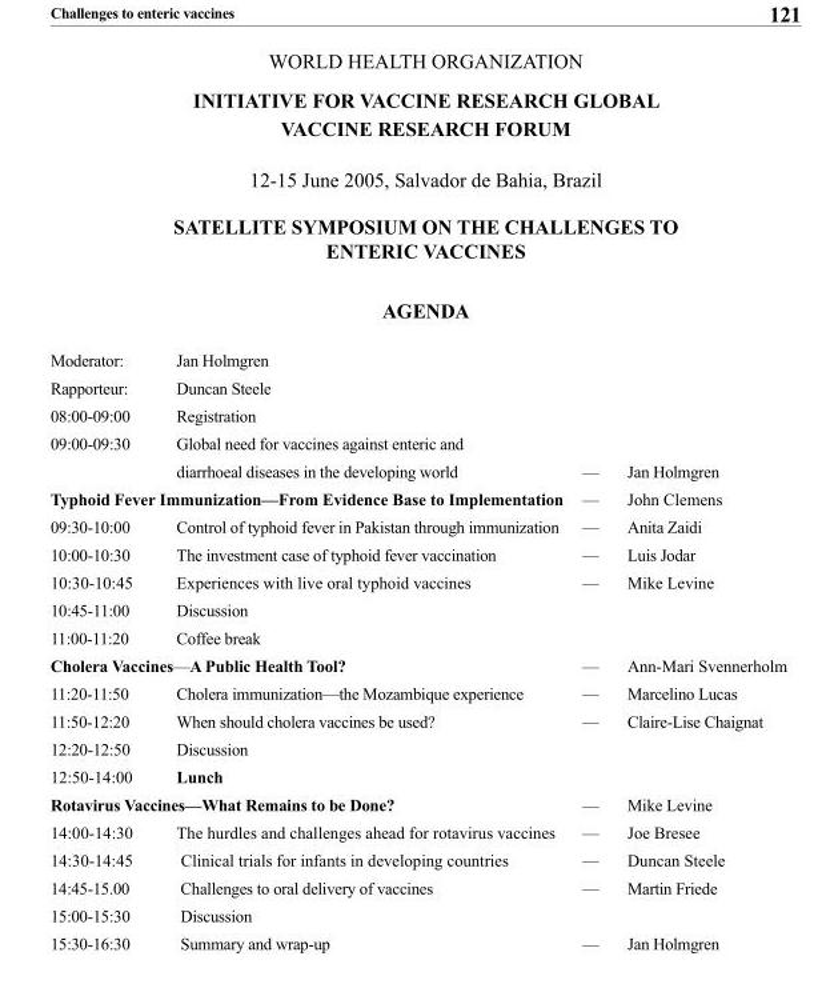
<table><thead><tr><td rowspan="5" colspan="4">WORLD HEALTH ORGANIZATION INITIATIVE FOR VACCINE RESEARCH GLOBAL VACCINE RESEARCH FORUM 12-15 June 2005, Salvador de Bahia, Brazil SATELLITE SYMPOSIUM ON THE CHALLENGES TO ENTERIC VACCINES AGENDA</td></tr><tr></tr><tr></tr><tr></tr><tr></tr><tr><td>Moderator:</td><td>Jan Holmgren</td><td></td><td></td></tr></thead><tbody><tr><td>Rapporteur:</td><td>Duncan Steele</td><td></td><td></td></tr><tr><td>08:00-09:00</td><td>Registration</td><td></td><td></td></tr><tr><td>09:00-09:30</td><td>Global need for vaccines against enteric and diarrhoeal diseases in the developing world</td><td>—</td><td>Jan Holmgren</td></tr><tr><td colspan="2">Typhoid Fever Immunization—From Evidence Base to Implementation</td><td>—</td><td>John Clemens</td></tr><tr><td>09:30-10:00</td><td>Control of typhoid fever in Pakistan through immunization</td><td>—</td><td>Anita Zaidi</td></tr><tr><td>10:00-10:30</td><td>The investment case of typhoid fever vaccination</td><td>—</td><td>Luis Jodar</td></tr><tr><td>10:30-10:45</td><td>Experiences with live oral typhoid vaccines</td><td>—</td><td>Mike Levine</td></tr><tr><td>10:45-11:00</td><td>Discussion</td><td></td><td></td></tr><tr><td>11:00-11:20</td><td>Coffee break</td><td></td><td></td></tr><tr><td colspan="2">Cholera Vaccines—A Public Health Tool?</td><td>—</td><td>Ann-Mari Svennerholm</td></tr><tr><td>11:20-11:50</td><td>Cholera immunization—the Mozambique experience</td><td>—</td><td>Marcelino Lucas</td></tr><tr><td>11:50-12:20</td><td>When should cholera vaccines be used?</td><td>—</td><td>Claire-Lise Chaignat</td></tr><tr><td>12:20-12:50</td><td>Discussion</td><td></td><td></td></tr><tr><td>12:50-14:00</td><td>Lunch</td><td></td><td></td></tr><tr><td colspan="2">Rotavirus Vaccines—What Remains to be Done?</td><td>—</td><td>Mike Levine</td></tr><tr><td>14:00-14:30</td><td>The hurdles and challenges ahead for rotavirus vaccines</td><td>—</td><td>Joe Bresee</td></tr><tr><td>14:30-14:45</td><td>Clinical trials for infants in developing countries</td><td>—</td><td>Duncan Steele</td></tr><tr><td>14:45-15.00</td><td>Challenges to oral delivery of vaccines</td><td>—</td><td>Martin Friede</td></tr><tr><td>15:00-15:30</td><td>Discussion</td><td></td><td></td></tr><tr><td>15:30-16:30</td><td>Summary and wrap-up</td><td>—</td><td>Jan Holmgren</td></tr></tbody></table>